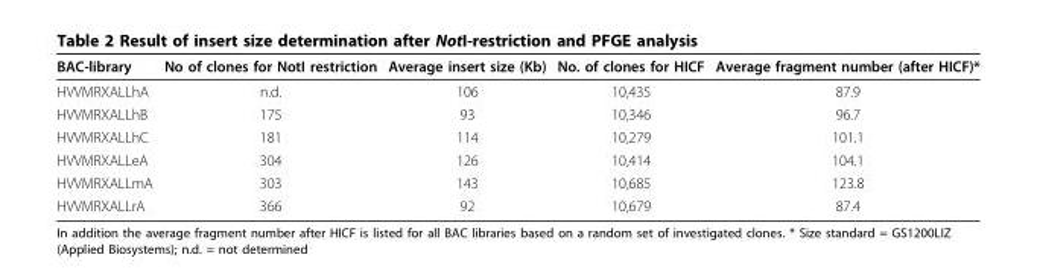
<table><thead><tr><td>BAC-library</td><td>No of clones for NotI restriction</td><td>Average insert size (Kb)</td><td>No. of clones for HICF</td><td>Average fragment number (after HICF)*</td></tr></thead><tbody><tr><td>HVVMRXALLhA</td><td>n.d.</td><td>106</td><td>10,435</td><td>87.9</td></tr><tr><td>HVVMRXALLhB</td><td>175</td><td>93</td><td>10,346</td><td>96.7</td></tr><tr><td>HVVMRXALLhC</td><td>181</td><td>114</td><td>10,279</td><td>101.1</td></tr><tr><td>HVVMRXALLeA</td><td>304</td><td>126</td><td>10,414</td><td>104.1</td></tr><tr><td>HVVMRXALLmA</td><td>303</td><td>143</td><td>10,685</td><td>123.8</td></tr><tr><td>HVVMRXALLrA</td><td>366</td><td>92</td><td>10,679</td><td>87.4</td></tr></tbody></table>